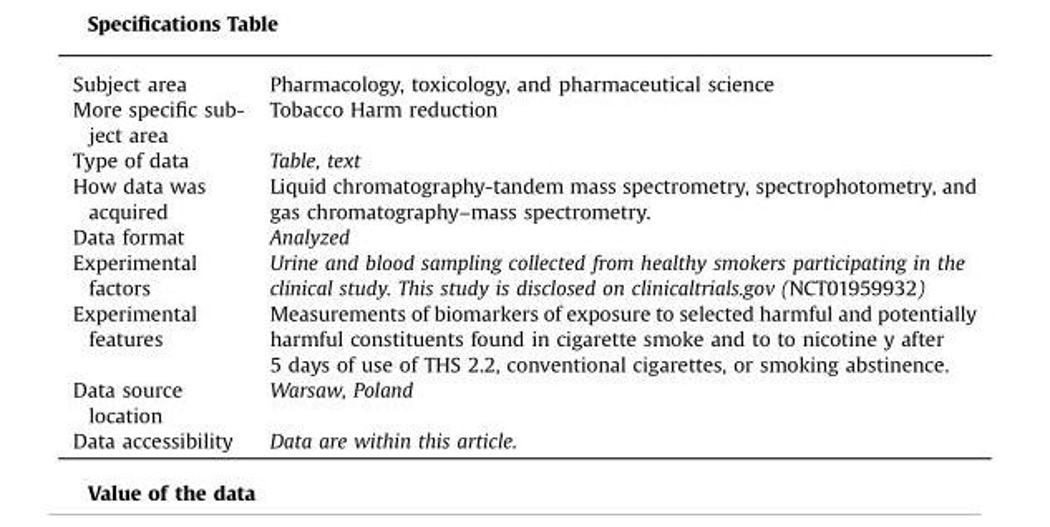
<table><tbody><tr><td>Subject area</td><td>Pharmacology, toxicology, and pharmaceutical science</td></tr><tr><td>More specific sub- ject area</td><td>Tobacco Harm reduction</td></tr><tr><td>Type of data</td><td>Table, text</td></tr><tr><td>How data was acquired</td><td>Liquid chromatography-tandem mass spectrometry, spectrophotometry, and gas chromatography–mass spectrometry.</td></tr><tr><td>Data format</td><td>Analyzed</td></tr><tr><td>Experimental factors</td><td>Urine and blood sampling collected from healthy smokers participating in the clinical study. This study is disclosed on clinicaltrials.gov (NCT01959932)</td></tr><tr><td>Experimental features</td><td>Measurements of biomarkers of exposure to selected harmful and potentially harmful constituents found in cigarette smoke and to to nicotine y after 5 days of use of THS 2.2, conventional cigarettes, or smoking abstinence.</td></tr><tr><td>Data source location</td><td>Warsaw, Poland</td></tr><tr><td>Data accessibility</td><td>Data are within this article.</td></tr></tbody></table>